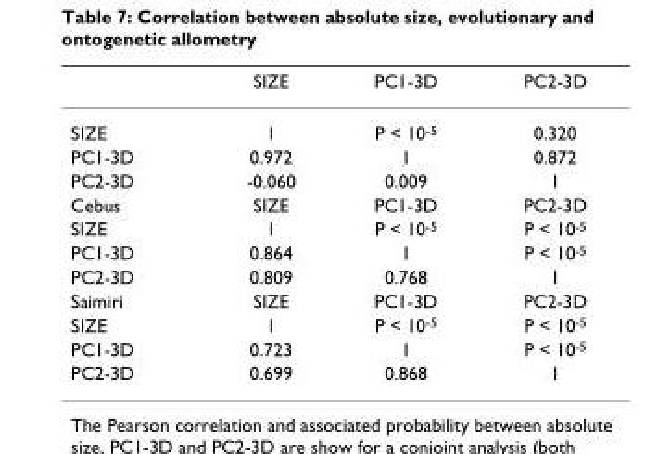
<table><thead><tr><td></td><td>SIZE</td><td>PC1-3D</td><td>PC2-3D</td></tr></thead><tbody><tr><td>SIZE</td><td>1</td><td>P &lt; 10<sup>-5</sup></td><td>0.320</td></tr><tr><td>PC1-3D</td><td>0.972</td><td>1</td><td>0.872</td></tr><tr><td>PC2-3D</td><td>-0.060</td><td>0.009</td><td>1</td></tr><tr><td>Cebus</td><td>SIZE</td><td>PC1-3D</td><td>PC2-3D</td></tr><tr><td>SIZE</td><td>1</td><td>P &lt; 10<sup>-5</sup></td><td>P &lt; 10<sup>-5</sup></td></tr><tr><td>PC1-3D</td><td>0.864</td><td>1</td><td>P &lt; 10<sup>-5</sup></td></tr><tr><td>PC2-3D</td><td>0.809</td><td>0.768</td><td>1</td></tr><tr><td>Saimiri</td><td>SIZE</td><td>PC1-3D</td><td>PC2-3D</td></tr><tr><td>SIZE</td><td>1</td><td>P &lt; 10<sup>-5</sup></td><td>P &lt; 10<sup>-5</sup></td></tr><tr><td>PC1-3D</td><td>0.723</td><td>1</td><td>P &lt; 10<sup>-5</sup></td></tr><tr><td>PC2-3D</td><td>0.699</td><td>0.868</td><td>1</td></tr></tbody></table>